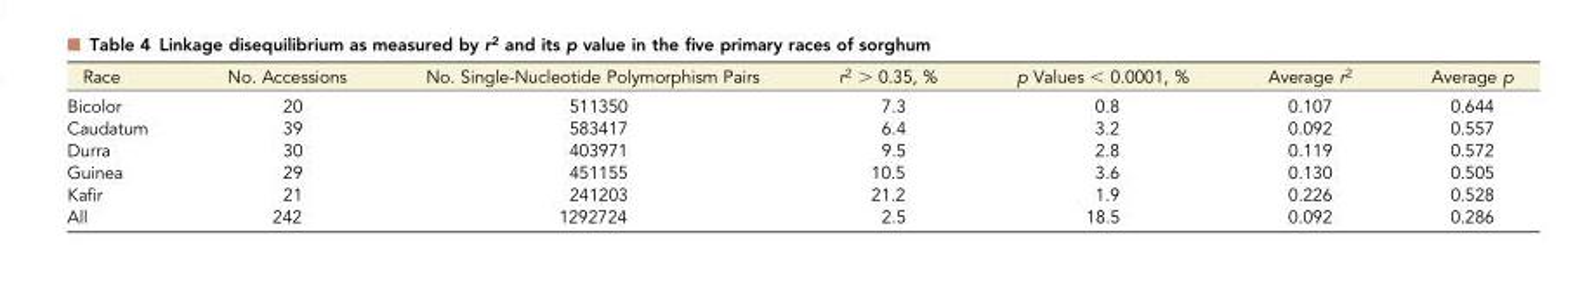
<table><thead><tr><td>Race</td><td>No. Accessions</td><td>No. Single-Nucleotide Polymorphism Pairs</td><td>r<sup>2</sup> &gt; 0.35, %</td><td>p Values &lt; 0.0001, %</td><td>Average r<sup>2</sup></td><td>Average p</td></tr></thead><tbody><tr><td>Bicolor</td><td>20</td><td>511350</td><td>7.3</td><td>0.8</td><td>0.107</td><td>0.644</td></tr><tr><td>Caudatum</td><td>39</td><td>583417</td><td>6.4</td><td>3.2</td><td>0.092</td><td>0.557</td></tr><tr><td>Durra</td><td>30</td><td>403971</td><td>9.5</td><td>2.8</td><td>0.119</td><td>0.572</td></tr><tr><td>Guinea</td><td>29</td><td>451155</td><td>10.5</td><td>3.6</td><td>0.130</td><td>0.505</td></tr><tr><td>Kafir</td><td>21</td><td>241203</td><td>21.2</td><td>1.9</td><td>0.226</td><td>0.528</td></tr><tr><td>All</td><td>242</td><td>1292724</td><td>2.5</td><td>18.5</td><td>0.092</td><td>0.286</td></tr></tbody></table>